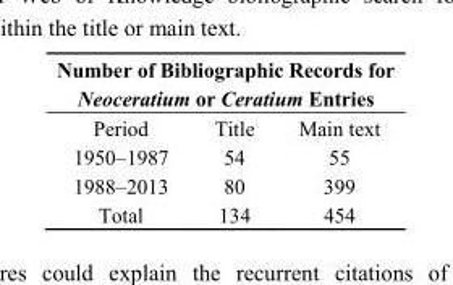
<table><thead><tr><td colspan="3">Number of Bibliographic Records for Neoceratium or Ceratium Entries</td></tr><tr><td>Period</td><td>Title</td><td>Main text</td></tr></thead><tbody><tr><td>1950–1987</td><td>54</td><td>55</td></tr><tr><td>1988–2013</td><td>80</td><td>399</td></tr><tr><td>Total</td><td>134</td><td>454</td></tr></tbody></table>